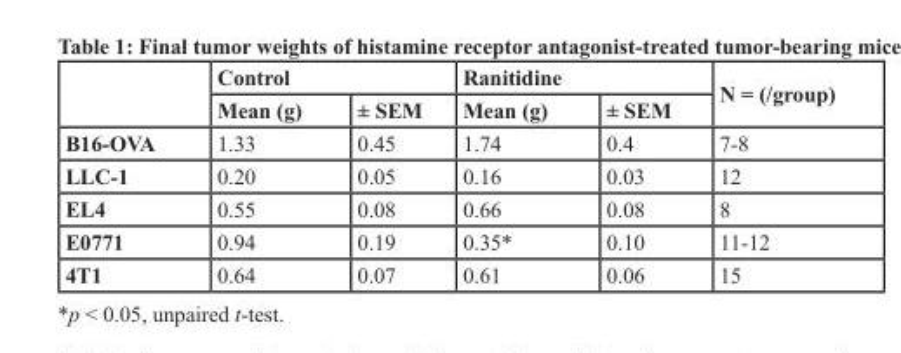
<table><thead><tr><td rowspan="2"></td><td colspan="2">Control</td><td colspan="2">Ranitidine</td><td rowspan="2">N = (/group)</td></tr><tr><td>Mean (g)</td><td>± SEM</td><td>Mean (g)</td><td>± SEM</td></tr></thead><tbody><tr><td>B16-OVA</td><td>1.33</td><td>0.45</td><td>1.74</td><td>0.4</td><td>7-8</td></tr><tr><td>LLC-1</td><td>0.20</td><td>0.05</td><td>0.16</td><td>0.03</td><td>12</td></tr><tr><td>EL4</td><td>0.55</td><td>0.08</td><td>0.66</td><td>0.08</td><td>8</td></tr><tr><td>E0771</td><td>0.94</td><td>0.19</td><td>0.35*</td><td>0.10</td><td>11-12</td></tr><tr><td>4T1</td><td>0.64</td><td>0.07</td><td>0.61</td><td>0.06</td><td>15</td></tr></tbody></table>